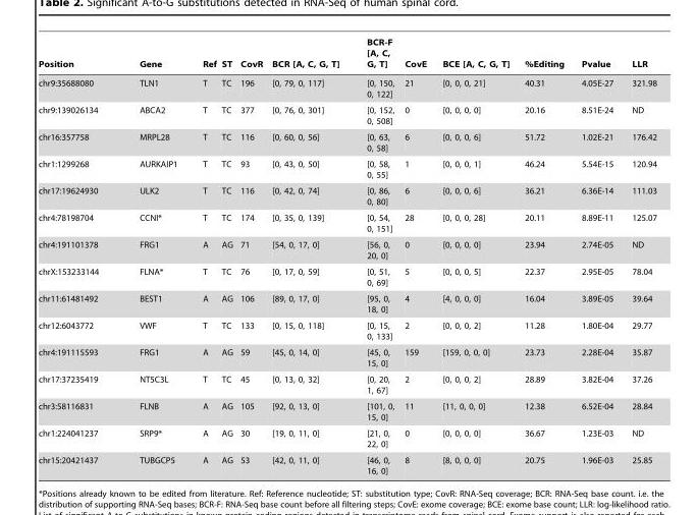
<table><thead><tr><td>Position</td><td>Gene</td><td>Ref</td><td>ST</td><td>CovR</td><td>BCR [A, C, G, T]</td><td>BCR-F [A, C, G, T]</td><td>CovE</td><td>BCE [A, C, G, T]</td><td>%Editing</td><td>Pvalue</td><td>LLR</td></tr></thead><tbody><tr><td>chr9:35688080</td><td>TLN1</td><td>T</td><td>TC</td><td>196</td><td>[0, 79, 0, 117]</td><td>[0, 150, 0, 122]</td><td>21</td><td>[0, 0, 0, 21]</td><td>40.31</td><td>4.05E-27</td><td>321.98</td></tr><tr><td>chr9:139026134</td><td>ABCA2</td><td>T</td><td>TC</td><td>377</td><td>[0, 76, 0, 301]</td><td>[0, 152, 0, 508]</td><td>0</td><td>[0, 0, 0, 0]</td><td>20.16</td><td>8.51E-24</td><td>ND</td></tr><tr><td>chr16:357758</td><td>MRPL28</td><td>T</td><td>TC</td><td>116</td><td>[0, 60, 0, 56]</td><td>[0, 63, 0, 58]</td><td>6</td><td>[0, 0, 0, 6]</td><td>51.72</td><td>1.02E-21</td><td>176.42</td></tr><tr><td>chr1:1299268</td><td>AURKAIP1</td><td>T</td><td>TC</td><td>93</td><td>[0, 43, 0, 50]</td><td>[0, 58, 0, 55]</td><td>1</td><td>[0, 0, 0, 1]</td><td>46.24</td><td>5.54E-15</td><td>120.94</td></tr><tr><td>chr17:19624930</td><td>ULK2</td><td>T</td><td>TC</td><td>116</td><td>[0, 42, 0, 74]</td><td>[0, 86, 0, 80]</td><td>6</td><td>[0, 0, 0, 6]</td><td>36.21</td><td>6.36E-14</td><td>111.03</td></tr><tr><td>chr4:78198704</td><td>CCNI*</td><td>T</td><td>TC</td><td>174</td><td>[0, 35, 0, 139]</td><td>[0, 54, 0, 151]</td><td>28</td><td>[0, 0, 0, 28]</td><td>20.11</td><td>8.89E-11</td><td>125.07</td></tr><tr><td>chr4:191101378</td><td>FRG1</td><td>A</td><td>AG</td><td>71</td><td>[54, 0, 17, 0]</td><td>[56, 0, 20, 0]</td><td>0</td><td>[0, 0, 0, 0]</td><td>23.94</td><td>2.74E-05</td><td>ND</td></tr><tr><td>chrX:153233144</td><td>FLNA*</td><td>T</td><td>TC</td><td>76</td><td>[0, 17, 0, 59]</td><td>[0, 51, 0, 69]</td><td>5</td><td>[0, 0, 0, 5]</td><td>22.37</td><td>2.95E-05</td><td>78.04</td></tr><tr><td>chr11:61481492</td><td>BEST1</td><td>A</td><td>AG</td><td>106</td><td>[89, 0, 17, 0]</td><td>[95, 0, 18, 0]</td><td>4</td><td>[4, 0, 0, 0]</td><td>16.04</td><td>3.89E-05</td><td>39.64</td></tr><tr><td>chr12:6043772</td><td>VWF</td><td>T</td><td>TC</td><td>133</td><td>[0, 15, 0, 118]</td><td>[0, 15, 0, 133]</td><td>2</td><td>[0, 0, 0, 2]</td><td>11.28</td><td>1.80E-04</td><td>29.77</td></tr><tr><td>chr4:191115593</td><td>FRG1</td><td>A</td><td>AG</td><td>59</td><td>[45, 0, 14, 0]</td><td>[45, 0, 15, 0]</td><td>159</td><td>[159, 0, 0, 0]</td><td>23.73</td><td>2.28E-04</td><td>35.87</td></tr><tr><td>chr17:37235419</td><td>NT5C3L</td><td>T</td><td>TC</td><td>45</td><td>[0, 13, 0, 32]</td><td>[0, 20, 1, 67]</td><td>2</td><td>[0, 0, 0, 2]</td><td>28.89</td><td>3.82E-04</td><td>37.26</td></tr><tr><td>chr3:58116831</td><td>FLNB</td><td>A</td><td>AG</td><td>105</td><td>[92, 0, 13, 0]</td><td>[101, 0, 15, 0]</td><td>11</td><td>[11, 0, 0, 0]</td><td>12.38</td><td>6.52E-04</td><td>28.84</td></tr><tr><td>chr1:224041237</td><td>SRP9*</td><td>A</td><td>AG</td><td>30</td><td>[19, 0, 11, 0]</td><td>[21, 0, 22, 0]</td><td>0</td><td>[0, 0, 0, 0]</td><td>36.67</td><td>1.23E-03</td><td>ND</td></tr><tr><td>chr15:20421437</td><td>TUBGCP5</td><td>A</td><td>AG</td><td>53</td><td>[42, 0, 11, 0]</td><td>[46, 0, 16, 0]</td><td>8</td><td>[8, 0, 0, 0]</td><td>20.75</td><td>1.96E-03</td><td>25.85</td></tr></tbody></table>